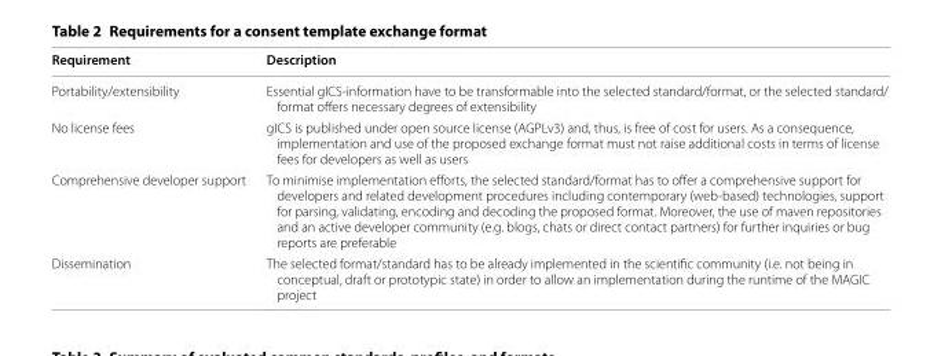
<table><thead><tr><td>Requirement</td><td>Description</td></tr></thead><tbody><tr><td>Portability/extensibility</td><td>Essential gICS-information have to be transformable into the selected standard/format, or the selected standard/ format offers necessary degrees of extensibility</td></tr><tr><td>No license fees</td><td>gICS is published under open source license (AGPLv3) and, thus, is free of cost for users. As a consequence, implementation and use of the proposed exchange format must not raise additional costs in terms of license fees for developers as well as users</td></tr><tr><td>Comprehensive developer support</td><td>To minimise implementation efforts, the selected standard/format has to offer a comprehensive support for developers and related development procedures including contemporary (web-based) technologies, support for parsing, validating, encoding and decoding the proposed format. Moreover, the use of maven repositories and an active developer community (e.g. blogs, chats or direct contact partners) for further inquiries or bug reports are preferable</td></tr><tr><td>Dissemination</td><td>The selected format/standard has to be already implemented in the scientific community (i.e. not being in conceptual, draft or prototypic state) in order to allow an implementation during the runtime of the MAGIC project</td></tr></tbody></table>